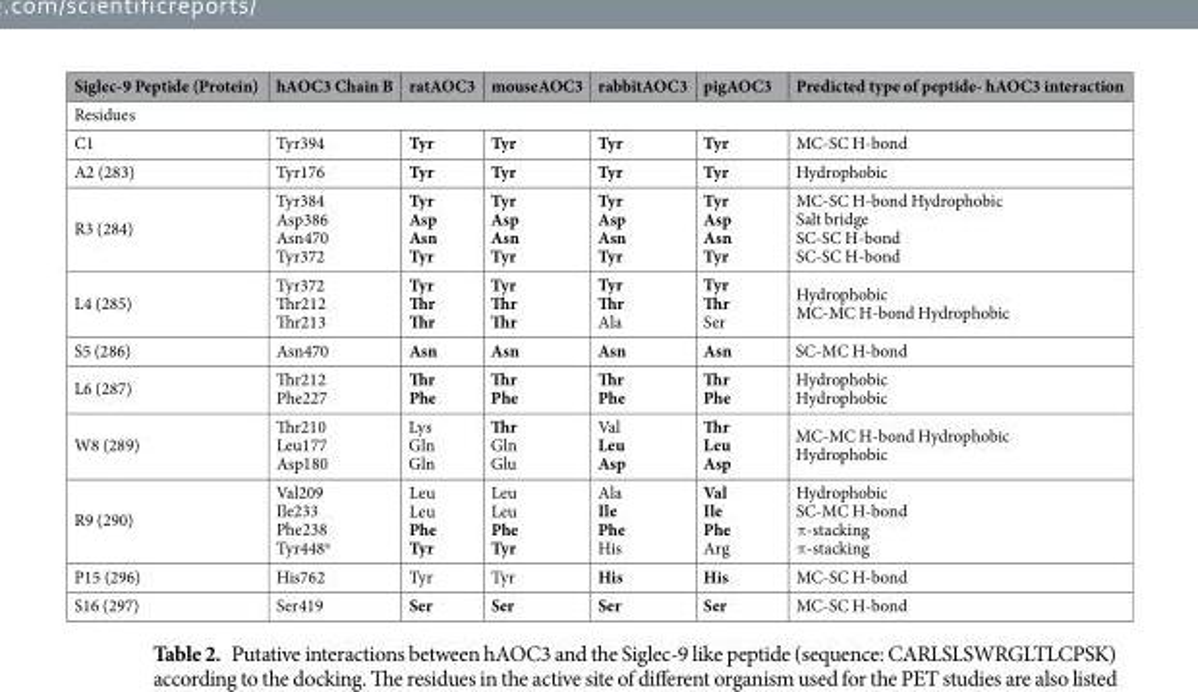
<table><thead><tr><td>Siglec-9 Peptide (Protein)</td><td>hAOC3 Chain B</td><td>ratAOC3</td><td>mouseAOC3</td><td>rabbitAOC3</td><td>pigAOC3</td><td>Predicted type of peptide- hAOC3 interaction</td></tr></thead><tbody><tr><td colspan="7">Residues</td></tr><tr><td>C1</td><td>Tyr394</td><td>Tyr</td><td>Tyr</td><td>Tyr</td><td>Tyr</td><td>MC-SC H-bond</td></tr><tr><td>A2 (283)</td><td>Tyr176</td><td>Tyr</td><td>Tyr</td><td>Tyr</td><td>Tyr</td><td>Hydrophobic</td></tr><tr><td>R3 (284)</td><td>Tyr384 Asp386 Asn470 Tyr372</td><td>Tyr Asp Asn Tyr</td><td>Tyr Asp Asn Tyr</td><td>Tyr Asp Asn Tyr</td><td>Tyr Asp Asn Tyr</td><td>MC-SC H-bond Hydrophobic Salt bridge SC-SC H-bond SC-SC H-bond</td></tr><tr><td>L4 (285)</td><td>Tyr372 Thr212 Thr213</td><td>Tyr Thr Thr</td><td>Tyr Thr Thr</td><td>Tyr Thr Ala</td><td>Tyr Thr Ser</td><td>Hydrophobic MC-MC H-bond Hydrophobic</td></tr><tr><td>S5 (286)</td><td>Asn470</td><td>Asn</td><td>Asn</td><td>Asn</td><td>Asn</td><td>SC-MC H-bond</td></tr><tr><td>L6 (287)</td><td>Thr212 Phe227</td><td>Thr Phe</td><td>Thr Phe</td><td>Thr Phe</td><td>Thr Phe</td><td>Hydrophobic Hydrophobic</td></tr><tr><td>W8 (289)</td><td>Thr210 Leu177 Asp180</td><td>Lys Gln Gln</td><td>Thr Gln Glu</td><td>Val Leu Asp</td><td>Thr Leu Asp</td><td>MC-MC H-bond Hydrophobic Hydrophobic</td></tr><tr><td>R9 (290)</td><td>Val209 Ile233 Phe238 Tyr448<sup>a</sup></td><td>Leu Leu Phe Tyr</td><td>Leu Leu Phe Tyr</td><td>Ala Ile Phe His</td><td>Val Ile Phe Arg</td><td>Hydrophobic SC-MC H-bond π-stacking π-stacking</td></tr><tr><td>P15 (296)</td><td>His762</td><td>Tyr</td><td>Tyr</td><td>His</td><td>His</td><td>MC-SC H-bond</td></tr><tr><td>S16 (297)</td><td>Ser419</td><td>Ser</td><td>Ser</td><td>Ser</td><td>Ser</td><td>MC-SC H-bond</td></tr></tbody></table>